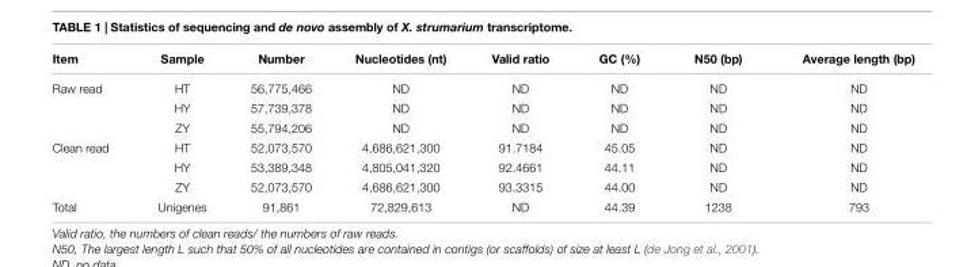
<table><thead><tr><td>Item</td><td>Sample</td><td>Number</td><td>Nucleotides (nt)</td><td>Valid ratio</td><td>GC (%)</td><td>N50 (bp)</td><td>Average length (bp)</td></tr></thead><tbody><tr><td rowspan="3">Raw read</td><td>HT</td><td>56,775,466</td><td>ND</td><td>ND</td><td>ND</td><td>ND</td><td>ND</td></tr><tr><td>HY</td><td>57,739,378</td><td>ND</td><td>ND</td><td>ND</td><td>ND</td><td>ND</td></tr><tr><td>ZY</td><td>55,794,206</td><td>ND</td><td>ND</td><td>ND</td><td>ND</td><td>ND</td></tr><tr><td rowspan="3">Clean read</td><td>HT</td><td>52,073,570</td><td>4,686,621,300</td><td>91.7184</td><td>45.05</td><td>ND</td><td>ND</td></tr><tr><td>HY</td><td>53,389,348</td><td>4,805,041,320</td><td>92.4661</td><td>44.11</td><td>ND</td><td>ND</td></tr><tr><td>ZY</td><td>52,073,570</td><td>4,686,621,300</td><td>93.3315</td><td>44.00</td><td>ND</td><td>ND</td></tr><tr><td>Total</td><td>Unigenes</td><td>91,861</td><td>72,829,613</td><td>ND</td><td>44.39</td><td>1238</td><td>793</td></tr></tbody></table>